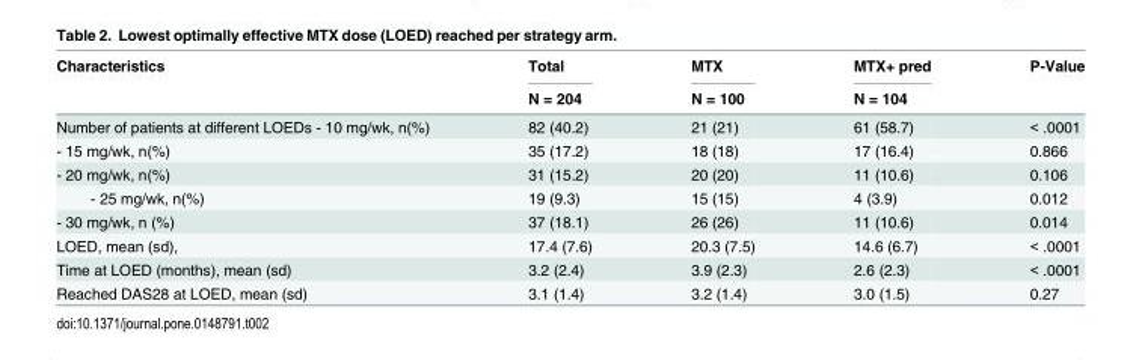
<table><thead><tr><td rowspan="2">Characteristics</td><td rowspan="2">Total N = 204</td><td rowspan="2">MTX N = 100</td><td rowspan="2">MTX+ pred N = 104</td><td rowspan="2">P-Value</td></tr><tr></tr></thead><tbody><tr><td>Number of patients at different LOEDs - 10 mg/wk, n(%)</td><td>82 (40.2)</td><td>21 (21)</td><td>61 (58.7)</td><td>&lt; .0001</td></tr><tr><td>- 15 mg/wk, n(%)</td><td>35 (17.2)</td><td>18 (18)</td><td>17 (16.4)</td><td>0.866</td></tr><tr><td>- 20 mg/wk, n(%)</td><td>31 (15.2)</td><td>20 (20)</td><td>11 (10.6)</td><td>0.106</td></tr><tr><td>- 25 mg/wk, n(%)</td><td>19 (9.3)</td><td>15 (15)</td><td>4 (3.9)</td><td>0.012</td></tr><tr><td>- 30 mg/wk, n (%)</td><td>37 (18.1)</td><td>26 (26)</td><td>11 (10.6)</td><td>0.014</td></tr><tr><td>LOED, mean (sd),</td><td>17.4 (7.6)</td><td>20.3 (7.5)</td><td>14.6 (6.7)</td><td>&lt; .0001</td></tr><tr><td>Time at LOED (months), mean (sd)</td><td>3.2 (2.4)</td><td>3.9 (2.3)</td><td>2.6 (2.3)</td><td>&lt; .0001</td></tr><tr><td>Reached DAS28 at LOED, mean (sd)</td><td>3.1 (1.4)</td><td>3.2 (1.4)</td><td>3.0 (1.5)</td><td>0.27</td></tr></tbody></table>